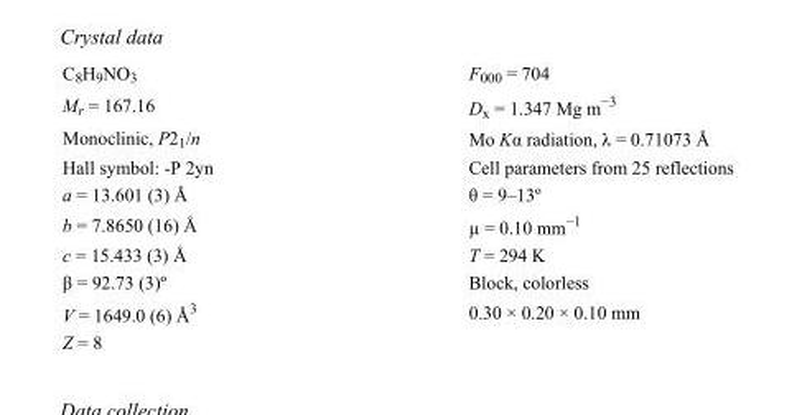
<table><tbody><tr><td>C<sub>8</sub>H<sub>9</sub>NO<sub>3</sub></td><td>F000 = 704</td></tr><tr><td>M<sub>r</sub> = 167.16</td><td>D<sub>x</sub> = 1.347 Mg m<sup>−3</sup></td></tr><tr><td>Monoclinic, P2<sub>1</sub>/n</td><td>Mo Kα radiation, λ = 0.71073 Å</td></tr><tr><td>Hall symbol: -P 2yn</td><td>Cell parameters from 25 reflections</td></tr><tr><td>a = 13.601 (3) Å</td><td>θ = 9–13º</td></tr><tr><td>b = 7.8650 (16) Å</td><td>µ = 0.10 mm<sup>−1</sup></td></tr><tr><td>c = 15.433 (3) Å</td><td>T = 294 K</td></tr><tr><td>β = 92.73 (3)º</td><td>Block, colorless</td></tr><tr><td>V = 1649.0 (6) Å<sup>3</sup></td><td>0.30 × 0.20 × 0.10 mm</td></tr><tr><td>Z = 8</td><td></td></tr></tbody></table>